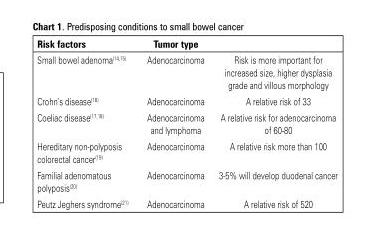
<table><thead><tr><td>Risk factors</td><td>Tumor type</td><td></td></tr></thead><tbody><tr><td>Small bowel adenoma<sup>(14,15)</sup></td><td>Adenocarcinoma</td><td>Risk is more important for increased size, higher dysplasia grade and villous morphology</td></tr><tr><td>Crohn’s disease<sup>(16)</sup></td><td>Adenocarcinoma</td><td>A relative risk of 33</td></tr><tr><td>Coeliac disease<sup>(17,18)</sup></td><td>Adenocarcinoma and lymphoma</td><td>A relative risk for adenocarcinoma of 60-80</td></tr><tr><td>Hereditary non-polyposis colorectal cancer<sup>(19)</sup></td><td>Adenocarcinoma</td><td>A relative risk more than 100</td></tr><tr><td>Familial adenomatous polyposis<sup>(20)</sup></td><td>Adenocarcinoma</td><td>3-5% will develop duodenal cancer</td></tr><tr><td>Peutz Jeghers syndrome<sup>(21)</sup></td><td>Adenocarcinoma</td><td>A relative risk of 520</td></tr></tbody></table>